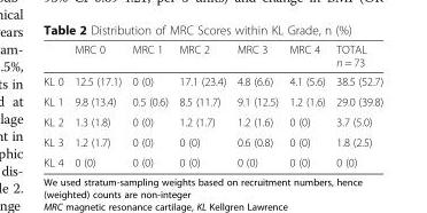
<table><thead><tr><td></td><td>MRC 0</td><td>MRC 1</td><td>MRC 2</td><td>MRC 3</td><td>MRC 4</td><td>TOTAL n = 73</td></tr></thead><tbody><tr><td>KL 0</td><td>12.5 (17.1)</td><td>0 (0)</td><td>17.1 (23.4)</td><td>4.8 (6.6)</td><td>4.1 (5.6)</td><td>38.5 (52.7)</td></tr><tr><td>KL 1</td><td>9.8 (13.4)</td><td>0.5 (0.6)</td><td>8.5 (11.7)</td><td>9.1 (12.5)</td><td>1.2 (1.6)</td><td>29.0 (39.8)</td></tr><tr><td>KL 2</td><td>1.3 (1.8)</td><td>0 (0)</td><td>1.2 (1.7)</td><td>1.2 (1.6)</td><td>0 (0)</td><td>3.7 (5.0)</td></tr><tr><td>KL 3</td><td>1.2 (1.7)</td><td>0 (0)</td><td>0 (0)</td><td>0.6 (0.8)</td><td>0 (0)</td><td>1.8 (2.5)</td></tr><tr><td>KL 4</td><td>0 (0)</td><td>0 (0)</td><td>0 (0)</td><td>0 (0)</td><td>0 (0)</td><td>0 (0)</td></tr></tbody></table>